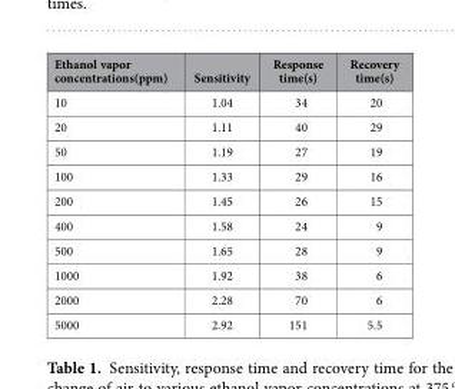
<table><thead><tr><td>Ethanol vapor concentrations(ppm)</td><td>Sensitivity</td><td>Response time(s)</td><td>Recovery time(s)</td></tr></thead><tbody><tr><td>10</td><td>1.04</td><td>34</td><td>20</td></tr><tr><td>20</td><td>1.11</td><td>40</td><td>29</td></tr><tr><td>50</td><td>1.19</td><td>27</td><td>19</td></tr><tr><td>100</td><td>1.33</td><td>29</td><td>16</td></tr><tr><td>200</td><td>1.45</td><td>26</td><td>15</td></tr><tr><td>400</td><td>1.58</td><td>24</td><td>9</td></tr><tr><td>500</td><td>1.65</td><td>28</td><td>9</td></tr><tr><td>1000</td><td>1.92</td><td>38</td><td>6</td></tr><tr><td>2000</td><td>2.28</td><td>70</td><td>6</td></tr><tr><td>5000</td><td>2.92</td><td>151</td><td>5.5</td></tr></tbody></table>